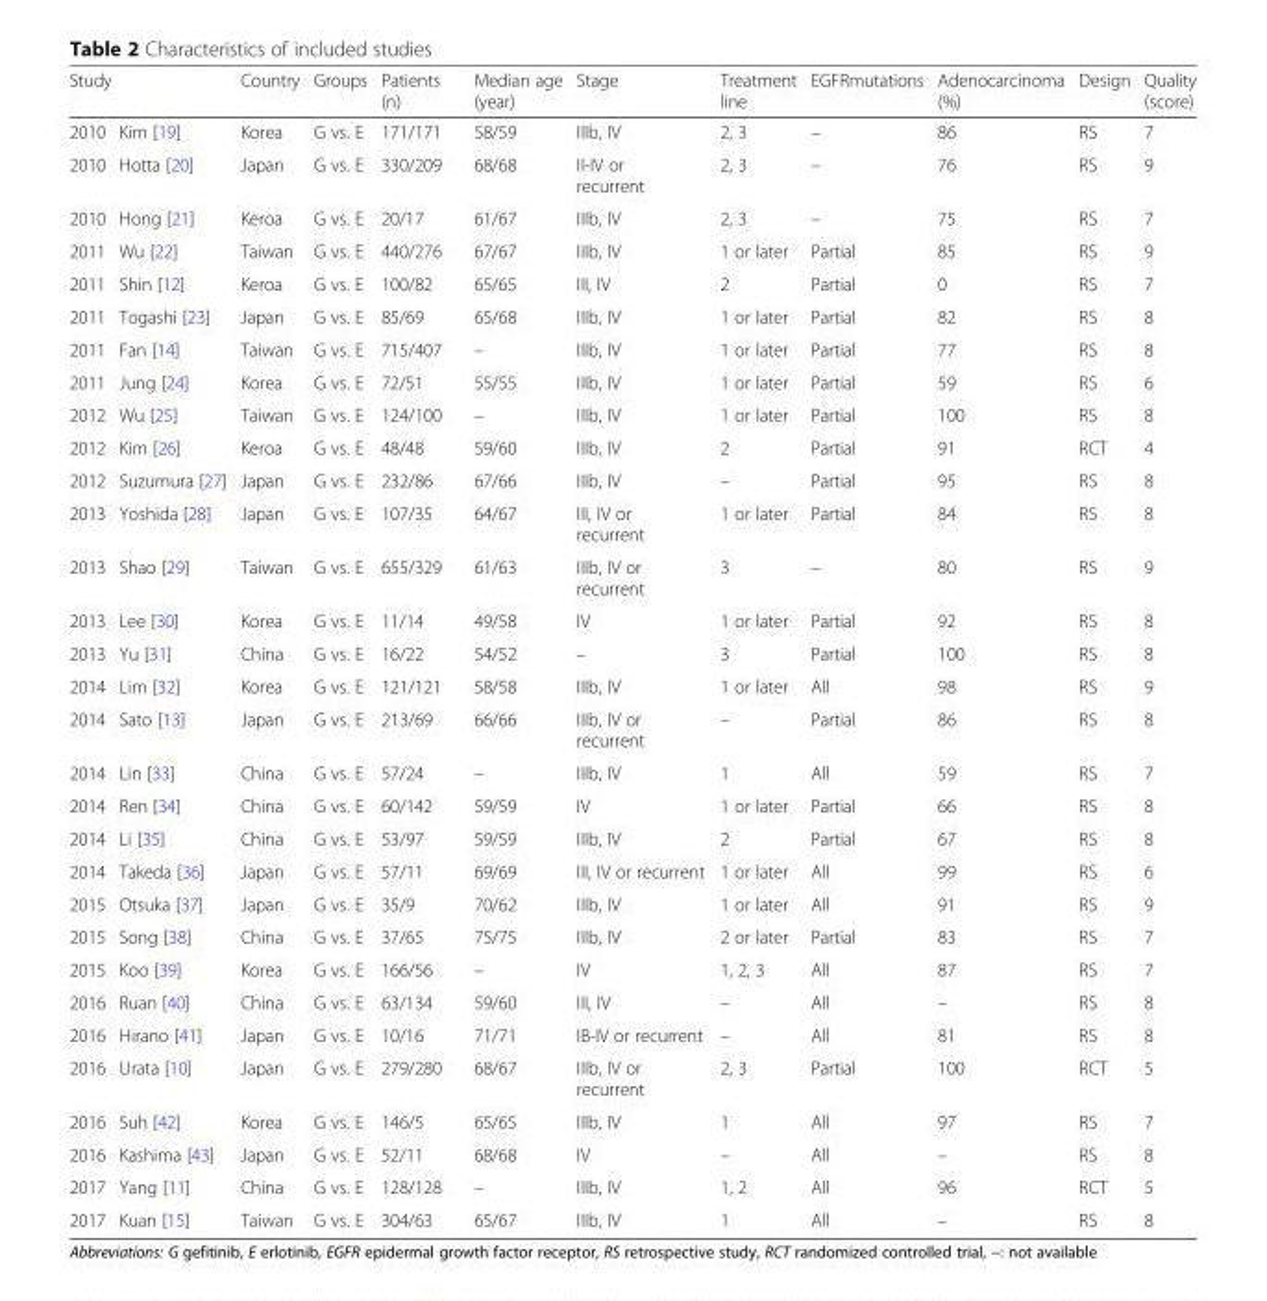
<table><thead><tr><td colspan="2">Study</td><td rowspan="2">Country Korea</td><td rowspan="2">Groups G vs. E</td><td rowspan="2">Patients (n) 171/171</td><td rowspan="2">Median age (year) 58/59</td><td rowspan="2">Stage IIIb, IV</td><td rowspan="2">Treatment line 2, 3</td><td rowspan="2">EGFRmutations –</td><td rowspan="2">Adenocarcinoma (%) 86</td><td rowspan="2">Design RS</td><td rowspan="2">Quality (score) 7</td></tr><tr><td>2010</td><td>Kim [19]</td></tr></thead><tbody><tr><td>2010</td><td>Hotta [20]</td><td>Japan</td><td>G vs. E</td><td>330/209</td><td>68/68</td><td>II-IV or recurrent</td><td>2, 3</td><td>–</td><td>76</td><td>RS</td><td>9</td></tr><tr><td>2010</td><td>Hong [21]</td><td>Keroa</td><td>G vs. E</td><td>20/17</td><td>61/67</td><td>IIIb, IV</td><td>2, 3</td><td>–</td><td>75</td><td>RS</td><td>7</td></tr><tr><td>2011</td><td>Wu [22]</td><td>Taiwan</td><td>G vs. E</td><td>440/276</td><td>67/67</td><td>IIIb, IV</td><td>1 or later</td><td>Partial</td><td>85</td><td>RS</td><td>9</td></tr><tr><td>2011</td><td>Shin [12]</td><td>Keroa</td><td>G vs. E</td><td>100/82</td><td>65/65</td><td>III, IV</td><td>2</td><td>Partial</td><td>0</td><td>RS</td><td>7</td></tr><tr><td>2011</td><td>Togashi [23]</td><td>Japan</td><td>G vs. E</td><td>85/69</td><td>65/68</td><td>IIIb, IV</td><td>1 or later</td><td>Partial</td><td>82</td><td>RS</td><td>8</td></tr><tr><td>2011</td><td>Fan [14]</td><td>Taiwan</td><td>G vs. E</td><td>715/407</td><td>–</td><td>IIIb, IV</td><td>1 or later</td><td>Partial</td><td>77</td><td>RS</td><td>8</td></tr><tr><td>2011</td><td>Jung [24]</td><td>Korea</td><td>G vs. E</td><td>72/51</td><td>55/55</td><td>IIIb, IV</td><td>1 or later</td><td>Partial</td><td>59</td><td>RS</td><td>6</td></tr><tr><td>2012</td><td>Wu [25]</td><td>Taiwan</td><td>G vs. E</td><td>124/100</td><td>–</td><td>IIIb, IV</td><td>1 or later</td><td>Partial</td><td>100</td><td>RS</td><td>8</td></tr><tr><td>2012</td><td>Kim [26]</td><td>Keroa</td><td>G vs. E</td><td>48/48</td><td>59/60</td><td>IIIb, IV</td><td>2</td><td>Partial</td><td>91</td><td>RCT</td><td>4</td></tr><tr><td>2012</td><td>Suzumura [27]</td><td>Japan</td><td>G vs. E</td><td>232/86</td><td>67/66</td><td>IIIb, IV</td><td>–</td><td>Partial</td><td>95</td><td>RS</td><td>8</td></tr><tr><td>2013</td><td>Yoshida [28]</td><td>Japan</td><td>G vs. E</td><td>107/35</td><td>64/67</td><td>III, IV or recurrent</td><td>1 or later</td><td>Partial</td><td>84</td><td>RS</td><td>8</td></tr><tr><td>2013</td><td>Shao [29]</td><td>Taiwan</td><td>G vs. E</td><td>655/329</td><td>61/63</td><td>IIIb, IV or recurrent</td><td>3</td><td>–</td><td>80</td><td>RS</td><td>9</td></tr><tr><td>2013</td><td>Lee [30]</td><td>Korea</td><td>G vs. E</td><td>11/14</td><td>49/58</td><td>IV</td><td>1 or later</td><td>Partial</td><td>92</td><td>RS</td><td>8</td></tr><tr><td>2013</td><td>Yu [31]</td><td>China</td><td>G vs. E</td><td>16/22</td><td>54/52</td><td>–</td><td>3</td><td>Partial</td><td>100</td><td>RS</td><td>8</td></tr><tr><td>2014</td><td>Lim [32]</td><td>Korea</td><td>G vs. E</td><td>121/121</td><td>58/58</td><td>IIIb, IV</td><td>1 or later</td><td>All</td><td>98</td><td>RS</td><td>9</td></tr><tr><td>2014</td><td>Sato [13]</td><td>Japan</td><td>G vs. E</td><td>213/69</td><td>66/66</td><td>IIIb, IV or recurrent</td><td>–</td><td>Partial</td><td>86</td><td>RS</td><td>8</td></tr><tr><td>2014</td><td>Lin [33]</td><td>China</td><td>G vs. E</td><td>57/24</td><td>–</td><td>IIIb, IV</td><td>1</td><td>All</td><td>59</td><td>RS</td><td>7</td></tr><tr><td>2014</td><td>Ren [34]</td><td>China</td><td>G vs. E</td><td>60/142</td><td>59/59</td><td>IV</td><td>1 or later</td><td>Partial</td><td>66</td><td>RS</td><td>8</td></tr><tr><td>2014</td><td>Li [35]</td><td>China</td><td>G vs. E</td><td>53/97</td><td>59/59</td><td>IIIb, IV</td><td>2</td><td>Partial</td><td>67</td><td>RS</td><td>8</td></tr><tr><td>2014</td><td>Takeda [36]</td><td>Japan</td><td>G vs. E</td><td>57/11</td><td>69/69</td><td>III, IV or recurrent</td><td>1 or later</td><td>All</td><td>99</td><td>RS</td><td>6</td></tr><tr><td>2015</td><td>Otsuka [37]</td><td>Japan</td><td>G vs. E</td><td>35/9</td><td>70/62</td><td>IIIb, IV</td><td>1 or later</td><td>All</td><td>91</td><td>RS</td><td>9</td></tr><tr><td>2015</td><td>Song [38]</td><td>China</td><td>G vs. E</td><td>37/65</td><td>75/75</td><td>IIIb, IV</td><td>2 or later</td><td>Partial</td><td>83</td><td>RS</td><td>7</td></tr><tr><td>2015</td><td>Koo [39]</td><td>Korea</td><td>G vs. E</td><td>166/56</td><td>–</td><td>IV</td><td>1, 2, 3</td><td>All</td><td>87</td><td>RS</td><td>7</td></tr><tr><td>2016</td><td>Ruan [40]</td><td>China</td><td>G vs. E</td><td>63/134</td><td>59/60</td><td>III, IV</td><td>–</td><td>All</td><td>–</td><td>RS</td><td>8</td></tr><tr><td>2016</td><td>Hirano [41]</td><td>Japan</td><td>G vs. E</td><td>10/16</td><td>71/71</td><td>IB-IV or recurrent</td><td>–</td><td>All</td><td>81</td><td>RS</td><td>8</td></tr><tr><td>2016</td><td>Urata [10]</td><td>Japan</td><td>G vs. E</td><td>279/280</td><td>68/67</td><td>IIIb, IV or recurrent</td><td>2, 3</td><td>Partial</td><td>100</td><td>RCT</td><td>5</td></tr><tr><td>2016</td><td>Suh [42]</td><td>Korea</td><td>G vs. E</td><td>146/5</td><td>65/65</td><td>IIIb, IV</td><td>1</td><td>All</td><td>97</td><td>RS</td><td>7</td></tr><tr><td>2016</td><td>Kashima [43]</td><td>Japan</td><td>G vs. E</td><td>52/11</td><td>68/68</td><td>IV</td><td>–</td><td>All</td><td>–</td><td>RS</td><td>8</td></tr><tr><td>2017</td><td>Yang [11]</td><td>China</td><td>G vs. E</td><td>128/128</td><td>–</td><td>IIIb, IV</td><td>1, 2</td><td>All</td><td>96</td><td>RCT</td><td>5</td></tr><tr><td>2017</td><td>Kuan [15]</td><td>Taiwan</td><td>G vs. E</td><td>304/63</td><td>65/67</td><td>IIIb, IV</td><td>1</td><td>All</td><td>–</td><td>RS</td><td>8</td></tr></tbody></table>